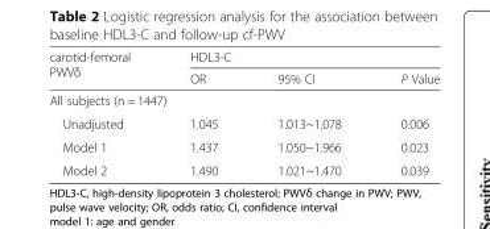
<table><thead><tr><td rowspan="2">carotid-femoral PWVδ</td><td colspan="3">HDL3-C</td></tr><tr><td>OR</td><td>95% CI</td><td>P Value</td></tr></thead><tbody><tr><td colspan="4">All subjects (n = 1447)</td></tr><tr><td>Unadjusted</td><td>1.045</td><td>1.013~1.078</td><td>0.006</td></tr><tr><td>Model 1</td><td>1.437</td><td>1.050~1.966</td><td>0.023</td></tr><tr><td>Model 2</td><td>1.490</td><td>1.021~1.470</td><td>0.039</td></tr></tbody></table>